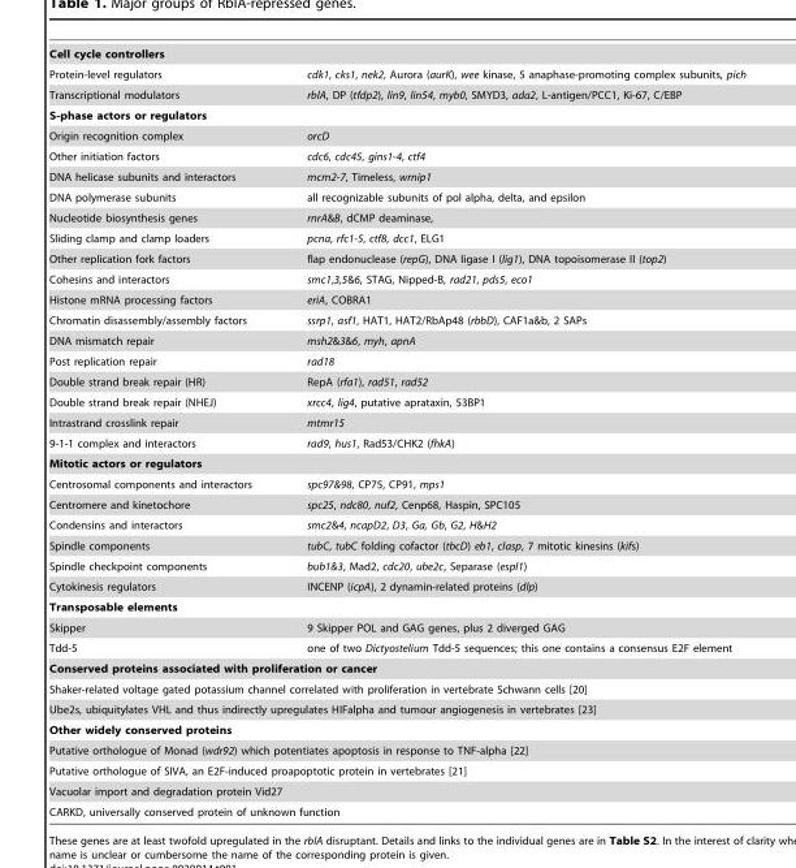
<table><tbody><tr><td colspan="2">Cell cycle controllers</td></tr><tr><td>Protein-level regulators</td><td>cdk1, cks1, nek2, Aurora (aurK), wee kinase, 5 anaphase-promoting complex subunits, pich</td></tr><tr><td>Transcriptional modulators</td><td>rblA, DP (tfdp2), lin9, lin54, myb0, SMYD3, ada2, L-antigen/PCC1, Ki-67, C/EBP</td></tr><tr><td colspan="2">S-phase actors or regulators</td></tr><tr><td>Origin recognition complex</td><td>orcD</td></tr><tr><td>Other initiation factors</td><td>cdc6, cdc45, gins1-4, ctf4</td></tr><tr><td>DNA helicase subunits and interactors</td><td>mcm2-7, Timeless, wrnip1</td></tr><tr><td>DNA polymerase subunits</td><td>all recognizable subunits of pol alpha, delta, and epsilon</td></tr><tr><td>Nucleotide biosynthesis genes</td><td>rnrA&amp;B, dCMP deaminase,</td></tr><tr><td>Sliding clamp and clamp loaders</td><td>pcna, rfc1-5, ctf8, dcc1, ELG1</td></tr><tr><td>Other replication fork factors</td><td>flap endonuclease (repG), DNA ligase I (lig1), DNA topoisomerase II (top2)</td></tr><tr><td>Cohesins and interactors</td><td>smc1,3,5&amp;6, STAG, Nipped-B, rad21, pds5, eco1</td></tr><tr><td>Histone mRNA processing factors</td><td>eriA, COBRA1</td></tr><tr><td>Chromatin disassembly/assembly factors</td><td>ssrp1, asf1, HAT1, HAT2/RbAp48 (rbbD), CAF1a&amp;b, 2 SAPs</td></tr><tr><td>DNA mismatch repair</td><td>msh2&amp;3&amp;6, myh, apnA</td></tr><tr><td>Post replication repair</td><td>rad18</td></tr><tr><td>Double strand break repair (HR)</td><td>RepA (rfa1), rad51, rad52</td></tr><tr><td>Double strand break repair (NHEJ)</td><td>xrcc4, lig4, putative aprataxin, 53BP1</td></tr><tr><td>Intrastrand crosslink repair</td><td>mtmr15</td></tr><tr><td>9-1-1 complex and interactors</td><td>rad9, hus1, Rad53/CHK2 (fhkA)</td></tr><tr><td colspan="2">Mitotic actors or regulators</td></tr><tr><td>Centrosomal components and interactors</td><td>spc97&amp;98, CP75, CP91, mps1</td></tr><tr><td>Centromere and kinetochore</td><td>spc25, ndc80, nuf2, Cenp68, Haspin, SPC105</td></tr><tr><td>Condensins and interactors</td><td>smc2&amp;4, ncapD2, D3, Ga, Gb, G2, H&amp;H2</td></tr><tr><td>Spindle components</td><td>tubC, tubC folding cofactor (tbcD) eb1, clasp, 7 mitotic kinesins (kifs)</td></tr><tr><td>Spindle checkpoint components</td><td>bub1&amp;3, Mad2, cdc20, ube2c, Separase (espl1)</td></tr><tr><td>Cytokinesis regulators</td><td>INCENP (icpA), 2 dynamin-related proteins (dlp)</td></tr><tr><td colspan="2">Transposable elements</td></tr><tr><td>Skipper</td><td>9 Skipper POL and GAG genes, plus 2 diverged GAG</td></tr><tr><td>Tdd-5</td><td>one of two Dictyostelium Tdd-5 sequences; this one contains a consensus E2F element</td></tr><tr><td colspan="2">Conserved proteins associated with proliferation or cancer</td></tr><tr><td colspan="2">Shaker-related voltage gated potassium channel correlated with proliferation in vertebrate Schwann cells [20]</td></tr><tr><td colspan="2">Ube2s, ubiquitylates VHL and thus indirectly upregulates HIFalpha and tumour angiogenesis in vertebrates [23]</td></tr><tr><td colspan="2">Other widely conserved proteins</td></tr><tr><td colspan="2">Putative orthologue of Monad (wdr92) which potentiates apoptosis in response to TNF-alpha [22]</td></tr><tr><td colspan="2">Putative orthologue of SIVA, an E2F-induced proapoptotic protein in vertebrates [21]</td></tr><tr><td colspan="2">Vacuolar import and degradation protein Vid27</td></tr><tr><td colspan="2">CARKD, universally conserved protein of unknown function</td></tr></tbody></table>